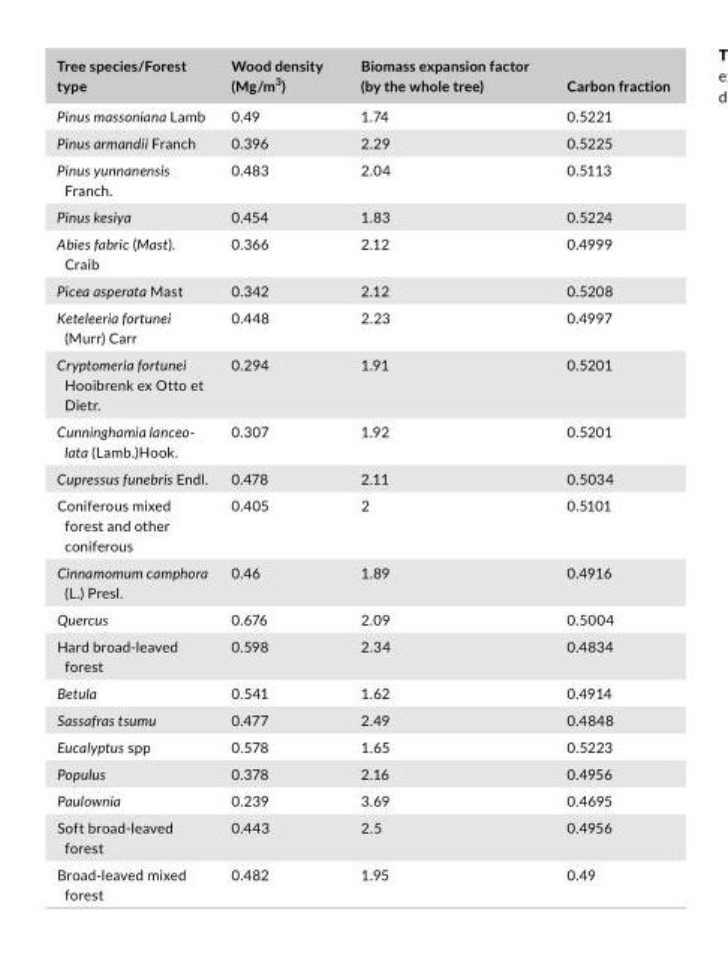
<table><thead><tr><td>Tree species/Forest type</td><td>Wood density (Mg/m<sup>3</sup>)</td><td>Biomass expansion factor (by the whole tree)</td><td>Carbon fraction</td></tr></thead><tbody><tr><td>Pinus massoniana Lamb</td><td>0.49</td><td>1.74</td><td>0.5221</td></tr><tr><td>Pinus armandii Franch</td><td>0.396</td><td>2.29</td><td>0.5225</td></tr><tr><td>Pinus yunnanensis Franch.</td><td>0.483</td><td>2.04</td><td>0.5113</td></tr><tr><td>Pinus kesiya</td><td>0.454</td><td>1.83</td><td>0.5224</td></tr><tr><td>Abies fabric (Mast). Craib</td><td>0.366</td><td>2.12</td><td>0.4999</td></tr><tr><td>Picea asperata Mast</td><td>0.342</td><td>2.12</td><td>0.5208</td></tr><tr><td>Keteleeria fortunei (Murr) Carr</td><td>0.448</td><td>2.23</td><td>0.4997</td></tr><tr><td>Cryptomeria fortunei Hooibrenk ex Otto et Dietr.</td><td>0.294</td><td>1.91</td><td>0.5201</td></tr><tr><td>Cunninghamia lanceo- lata (Lamb.)Hook.</td><td>0.307</td><td>1.92</td><td>0.5201</td></tr><tr><td>Cupressus funebris Endl.</td><td>0.478</td><td>2.11</td><td>0.5034</td></tr><tr><td>Coniferous mixed forest and other coniferous</td><td>0.405</td><td>2</td><td>0.5101</td></tr><tr><td>Cinnamomum camphora (L.) Presl.</td><td>0.46</td><td>1.89</td><td>0.4916</td></tr><tr><td>Quercus</td><td>0.676</td><td>2.09</td><td>0.5004</td></tr><tr><td>Hard broad- leaved forest</td><td>0.598</td><td>2.34</td><td>0.4834</td></tr><tr><td>Betula</td><td>0.541</td><td>1.62</td><td>0.4914</td></tr><tr><td>Sassafras tsumu</td><td>0.477</td><td>2.49</td><td>0.4848</td></tr><tr><td>Eucalyptus spp</td><td>0.578</td><td>1.65</td><td>0.5223</td></tr><tr><td>Populus</td><td>0.378</td><td>2.16</td><td>0.4956</td></tr><tr><td>Paulownia</td><td>0.239</td><td>3.69</td><td>0.4695</td></tr><tr><td>Soft broad- leaved forest</td><td>0.443</td><td>2.5</td><td>0.4956</td></tr><tr><td>Broad- leaved mixed forest</td><td>0.482</td><td>1.95</td><td>0.49</td></tr></tbody></table>